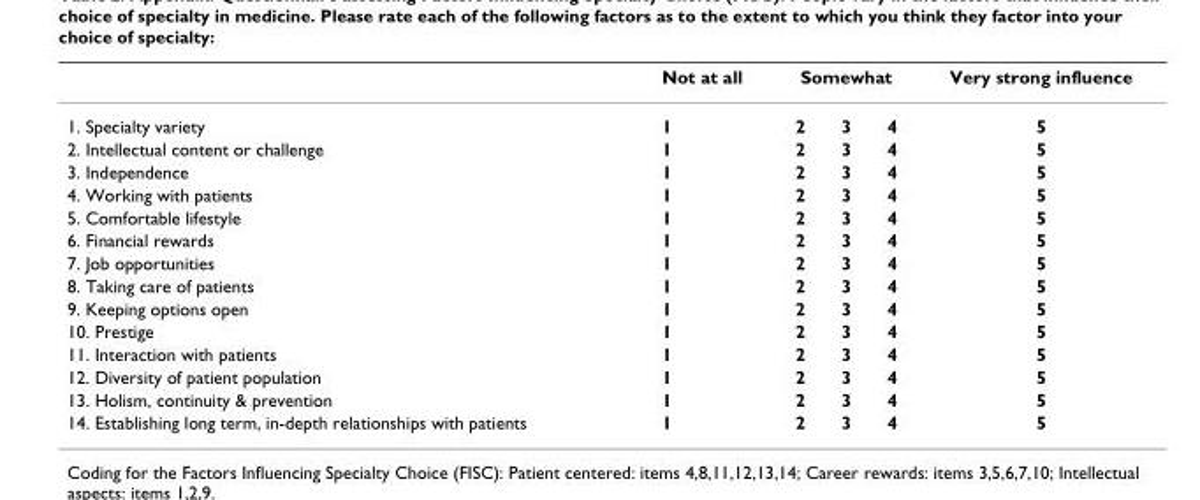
<table><thead><tr><td rowspan="2">1. Specialty variety</td><td rowspan="2">Not at all 1</td><td colspan="3">Somewhat</td><td rowspan="2">Very strong influence 5</td></tr><tr><td>2</td><td>3</td><td>4</td></tr></thead><tbody><tr><td>2. Intellectual content or challenge</td><td>1</td><td>2</td><td>3</td><td>4</td><td>5</td></tr><tr><td>3. Independence</td><td>1</td><td>2</td><td>3</td><td>4</td><td>5</td></tr><tr><td>4. Working with patients</td><td>1</td><td>2</td><td>3</td><td>4</td><td>5</td></tr><tr><td>5. Comfortable lifestyle</td><td>1</td><td>2</td><td>3</td><td>4</td><td>5</td></tr><tr><td>6. Financial rewards</td><td>1</td><td>2</td><td>3</td><td>4</td><td>5</td></tr><tr><td>7. Job opportunities</td><td>1</td><td>2</td><td>3</td><td>4</td><td>5</td></tr><tr><td>8. Taking care of patients</td><td>1</td><td>2</td><td>3</td><td>4</td><td>5</td></tr><tr><td>9. Keeping options open</td><td>1</td><td>2</td><td>3</td><td>4</td><td>5</td></tr><tr><td>10. Prestige</td><td>1</td><td>2</td><td>3</td><td>4</td><td>5</td></tr><tr><td>11. Interaction with patients</td><td>1</td><td>2</td><td>3</td><td>4</td><td>5</td></tr><tr><td>12. Diversity of patient population</td><td>1</td><td>2</td><td>3</td><td>4</td><td>5</td></tr><tr><td>13. Holism, continuity &amp; prevention</td><td>1</td><td>2</td><td>3</td><td>4</td><td>5</td></tr><tr><td>14. Establishing long term, in-depth relationships with patients</td><td>1</td><td>2</td><td>3</td><td>4</td><td>5</td></tr></tbody></table>